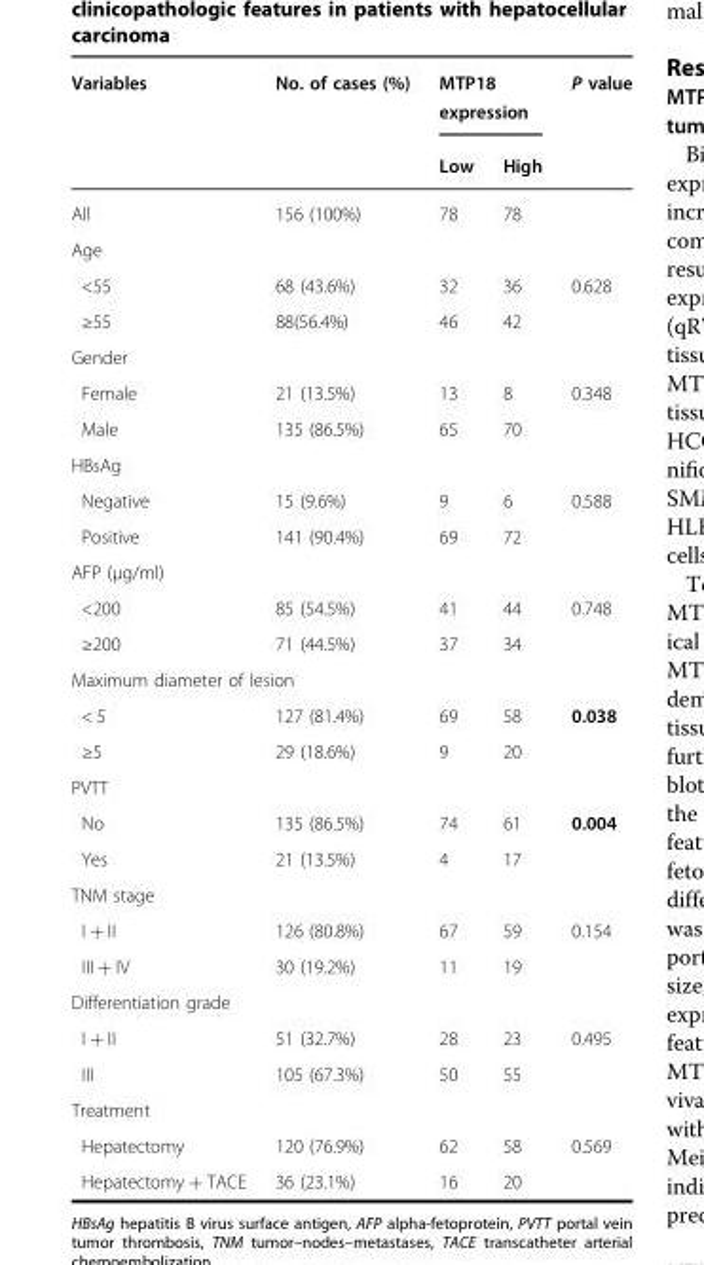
<table><thead><tr><td rowspan="2">Variables</td><td rowspan="2">No. of cases (%)</td><td colspan="2">MTP18 expression</td><td rowspan="2">P value</td></tr><tr><td>Low</td><td>High</td></tr></thead><tbody><tr><td>All</td><td>156 (100%)</td><td>78</td><td>78</td><td></td></tr><tr><td colspan="5">Age</td></tr><tr><td>&lt;55</td><td>68 (43.6%)</td><td>32</td><td>36</td><td rowspan="2">0.628</td></tr><tr><td>≥55</td><td>88(56.4%)</td><td>46</td><td>42</td></tr><tr><td colspan="5">Gender</td></tr><tr><td>Female</td><td>21 (13.5%)</td><td>13</td><td>8</td><td rowspan="2">0.348</td></tr><tr><td>Male</td><td>135 (86.5%)</td><td>65</td><td>70</td></tr><tr><td colspan="5">HBsAg</td></tr><tr><td>Negative</td><td>15 (9.6%)</td><td>9</td><td>6</td><td rowspan="2">0.588</td></tr><tr><td>Positive</td><td>141 (90.4%)</td><td>69</td><td>72</td></tr><tr><td colspan="5">AFP (µg/ml)</td></tr><tr><td>&lt;200</td><td>85 (54.5%)</td><td>41</td><td>44</td><td rowspan="2">0.748</td></tr><tr><td>≥200</td><td>71 (44.5%)</td><td>37</td><td>34</td></tr><tr><td colspan="5">Maximum diameter of lesion</td></tr><tr><td>&lt; 5</td><td>127 (81.4%)</td><td>69</td><td>58</td><td rowspan="2">0.038</td></tr><tr><td>≥5</td><td>29 (18.6%)</td><td>9</td><td>20</td></tr><tr><td colspan="5">PVTT</td></tr><tr><td>No</td><td>135 (86.5%)</td><td>74</td><td>61</td><td rowspan="2">0.004</td></tr><tr><td>Yes</td><td>21 (13.5%)</td><td>4</td><td>17</td></tr><tr><td colspan="5">TNM stage</td></tr><tr><td>I + II</td><td>126 (80.8%)</td><td>67</td><td>59</td><td rowspan="2">0.154</td></tr><tr><td>III + IV</td><td>30 (19.2%)</td><td>11</td><td>19</td></tr><tr><td colspan="5">Differentiation grade</td></tr><tr><td>I + II</td><td>51 (32.7%)</td><td>28</td><td>23</td><td rowspan="2">0.495</td></tr><tr><td>III</td><td>105 (67.3%)</td><td>50</td><td>55</td></tr><tr><td colspan="5">Treatment</td></tr><tr><td>Hepatectomy</td><td>120 (76.9%)</td><td>62</td><td>58</td><td rowspan="2">0.569</td></tr><tr><td>Hepatectomy + TACE</td><td>36 (23.1%)</td><td>16</td><td>20</td></tr></tbody></table>